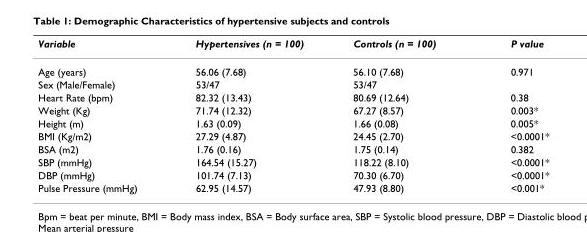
<table><thead><tr><td>Variable</td><td>Hypertensives (n = 100)</td><td>Controls (n = 100)</td><td>P value</td></tr></thead><tbody><tr><td>Age (years)</td><td>56.06 (7.68)</td><td>56.10 (7.68)</td><td>0.971</td></tr><tr><td>Sex (Male/Female)</td><td>53/47</td><td>53/47</td><td></td></tr><tr><td>Heart Rate (bpm)</td><td>82.32 (13.43)</td><td>80.69 (12.64)</td><td>0.38</td></tr><tr><td>Weight (Kg)</td><td>71.74 (12.32)</td><td>67.27 (8.57)</td><td>0.003*</td></tr><tr><td>Height (m)</td><td>1.63 (0.09)</td><td>1.66 (0.08)</td><td>0.005*</td></tr><tr><td>BMI (Kg/m2)</td><td>27.29 (4.87)</td><td>24.45 (2.70)</td><td>&lt;0.0001*</td></tr><tr><td>BSA (m2)</td><td>1.76 (0.16)</td><td>1.75 (0.14)</td><td>0.382</td></tr><tr><td>SBP (mmHg)</td><td>164.54 (15.27)</td><td>118.22 (8.10)</td><td>&lt;0.0001*</td></tr><tr><td>DBP (mmHg)</td><td>101.74 (7.13)</td><td>70.30 (6.70)</td><td>&lt;0.0001*</td></tr><tr><td>Pulse Pressure (mmHg)</td><td>62.95 (14.57)</td><td>47.93 (8.80)</td><td>&lt;0.001*</td></tr></tbody></table>